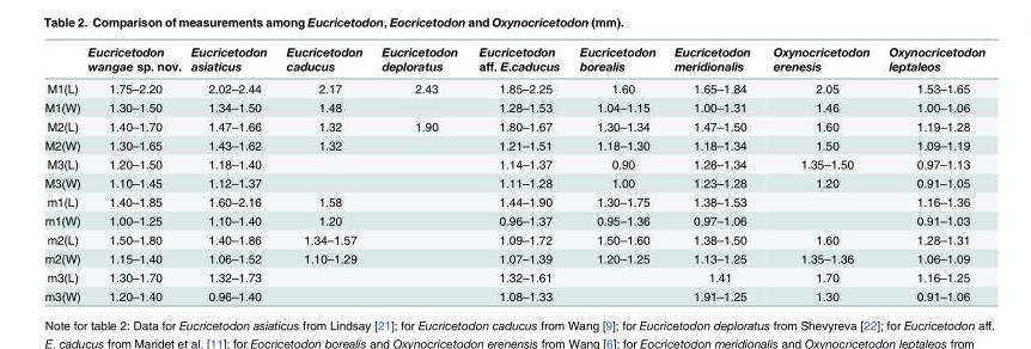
<table><thead><tr><td></td><td>Eucricetodon wangae sp. nov.</td><td>Eucricetodon asiaticus</td><td>Eucricetodon caducus</td><td>Eucricetodon deploratus</td><td>Eucricetodon aff. E.caducus</td><td>Eucricetodon borealis</td><td>Eucricetodon meridionalis</td><td>Oxynocricetodon erenesis</td><td>Oxynocricetodon leptaleos</td></tr></thead><tbody><tr><td>M1(L)</td><td>1.75–2.20</td><td>2.02–2.44</td><td>2.17</td><td>2.43</td><td>1.85–2.25</td><td>1.60</td><td>1.65–1.84</td><td>2.05</td><td>1.53–1.65</td></tr><tr><td>M1(W)</td><td>1.30–1.50</td><td>1.34–1.50</td><td>1.48</td><td></td><td>1.28–1.53</td><td>1.04–1.15</td><td>1.00–1.31</td><td>1.46</td><td>1.00–1.06</td></tr><tr><td>M2(L)</td><td>1.40–1.70</td><td>1.47–1.66</td><td>1.32</td><td>1.90</td><td>1.80–1.67</td><td>1.30–1.34</td><td>1.47–1.50</td><td>1.60</td><td>1.19–1.28</td></tr><tr><td>M2(W)</td><td>1.30–1.65</td><td>1.43–1.62</td><td>1.32</td><td></td><td>1.21–1.51</td><td>1.18–1.30</td><td>1.18–1.34</td><td>1.50</td><td>1.09–1.19</td></tr><tr><td>M3(L)</td><td>1.20–1.50</td><td>1.18–1.40</td><td></td><td></td><td>1.14–1.37</td><td>0.90</td><td>1.28–1.34</td><td>1.35–1.50</td><td>0.97–1.13</td></tr><tr><td>M3(W)</td><td>1.10–1.45</td><td>1.12–1.37</td><td></td><td></td><td>1.11–1.28</td><td>1.00</td><td>1.23–1.28</td><td>1.20</td><td>0.91–1.05</td></tr><tr><td>m1(L)</td><td>1.40–1.85</td><td>1.60–2.16</td><td>1.58</td><td></td><td>1.44–1.90</td><td>1.30–1.75</td><td>1.38–1.53</td><td></td><td>1.16–1.36</td></tr><tr><td>m1(W)</td><td>1.00–1.25</td><td>1.10–1.40</td><td>1.20</td><td></td><td>0.96–1.37</td><td>0.95–1.36</td><td>0.97–1.06</td><td></td><td>0.91–1.03</td></tr><tr><td>m2(L)</td><td>1.50–1.80</td><td>1.40–1.86</td><td>1.34–1.57</td><td></td><td>1.09–1.72</td><td>1.50–1.60</td><td>1.38–1.50</td><td>1.60</td><td>1.28–1.31</td></tr><tr><td>m2(W)</td><td>1.15–1.40</td><td>1.06–1.52</td><td>1.10–1.29</td><td></td><td>1.07–1.39</td><td>1.20–1.25</td><td>1.13–1.25</td><td>1.35–1.36</td><td>1.06–1.09</td></tr><tr><td>m3(L)</td><td>1.30–1.70</td><td>1.32–1.73</td><td></td><td></td><td>1.32–1.61</td><td></td><td>1.41</td><td>1.70</td><td>1.16–1.25</td></tr><tr><td>m3(W)</td><td>1.20–1.40</td><td>0.96–1.40</td><td></td><td></td><td>1.08–1.33</td><td></td><td>1.91–1.25</td><td>1.30</td><td>0.91–1.06</td></tr></tbody></table>